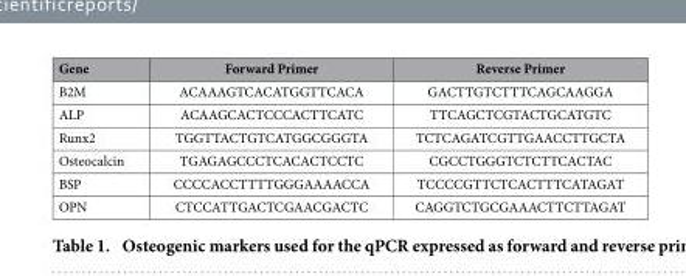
<table><thead><tr><td>Gene</td><td>Forward Primer</td><td>Reverse Primer</td></tr></thead><tbody><tr><td>B2M</td><td>ACAAAGTCACATGGTTCACA</td><td>GACTTGTCTTTCAGCAAGGA</td></tr><tr><td>ALP</td><td>ACAAGCACTCCCACTTCATC</td><td>TTCAGCTCGTACTGCATGTC</td></tr><tr><td>Runx2</td><td>TGGTTACTGTCATGGCGGGTA</td><td>TCTCAGATCGTTGAACCTTGCTA</td></tr><tr><td>Osteocalcin</td><td>TGAGAGCCCTCACACTCCTC</td><td>CGCCTGGGTCTCTTCACTAC</td></tr><tr><td>BSP</td><td>CCCCACCTTTTGGGAAAACCA</td><td>TCCCCGTTCTCACTTTCATAGAT</td></tr><tr><td>OPN</td><td>CTCCATTGACTCGAACGACTC</td><td>CAGGTCTGCGAAACTTCTTAGAT</td></tr></tbody></table>